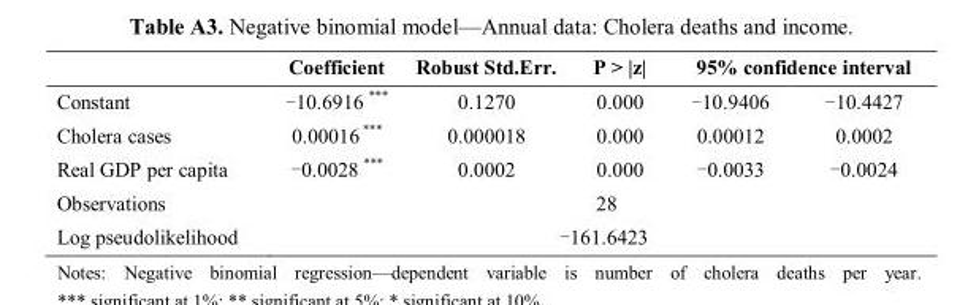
<table><thead><tr><td rowspan="2">Constant</td><td rowspan="2">Coefficient -10.6916 ***</td><td rowspan="2">Robust Std.Err. 0.1270</td><td rowspan="2">P &gt; |z| 0.000</td><td colspan="2">95% confidence interval</td></tr><tr><td>-10.9406</td><td>-10.4427</td></tr></thead><tbody><tr><td>Cholera cases</td><td>0.00016 ***</td><td>0.000018</td><td>0.000</td><td>0.00012</td><td>0.0002</td></tr><tr><td>Real GDP per capita</td><td>-0.0028 ***</td><td>0.0002</td><td>0.000</td><td>-0.0033</td><td>-0.0024</td></tr><tr><td>Observations</td><td colspan="5">28</td></tr><tr><td>Log pseudolikelihood</td><td colspan="5">-161.6423</td></tr></tbody></table>